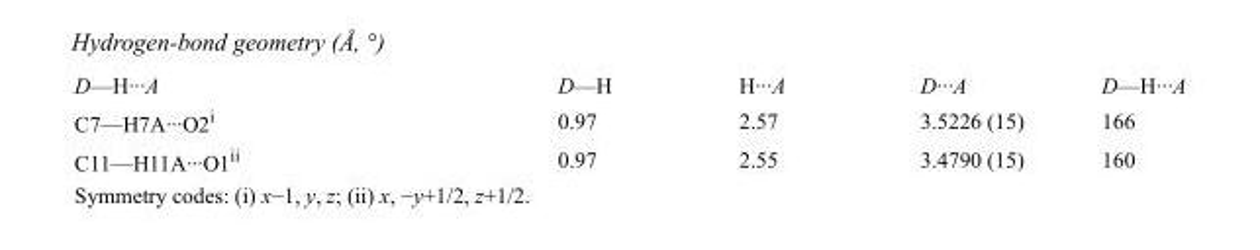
<table><tbody><tr><td>D—H···A</td><td>D—H</td><td>H···A</td><td>D···A</td><td>D—H···A</td></tr><tr><td>C7—H7A···O2<sup>i</sup></td><td>0.97</td><td>2.57</td><td>3.5226 (15)</td><td>166</td></tr><tr><td>C11—H11A···O1<sup>ii</sup></td><td>0.97</td><td>2.55</td><td>3.4790 (15)</td><td>160</td></tr></tbody></table>